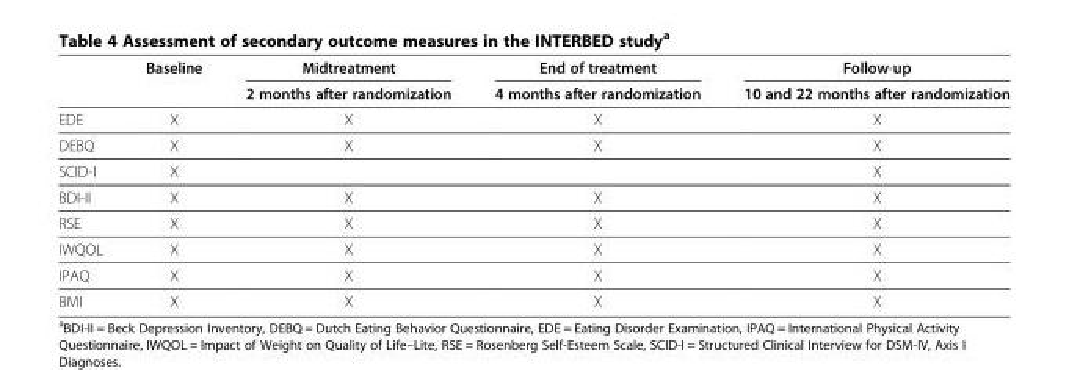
<table><thead><tr><td rowspan="2"></td><td rowspan="2">Baseline</td><td rowspan="2">Midtreatment 2 months after randomization</td><td rowspan="2">End of treatment 4 months after randomization</td><td rowspan="2">Follow-up 10 and 22 months after randomization</td></tr><tr></tr></thead><tbody><tr><td>EDE</td><td>X</td><td>X</td><td>X</td><td>X</td></tr><tr><td>DEBQ</td><td>X</td><td>X</td><td>X</td><td>X</td></tr><tr><td>SCID-I</td><td>X</td><td></td><td></td><td>X</td></tr><tr><td>BDI-II</td><td>X</td><td>X</td><td>X</td><td>X</td></tr><tr><td>RSE</td><td>X</td><td>X</td><td>X</td><td>X</td></tr><tr><td>IWQOL</td><td>X</td><td>X</td><td>X</td><td>X</td></tr><tr><td>IPAQ</td><td>X</td><td>X</td><td>X</td><td>X</td></tr><tr><td>BMI</td><td>X</td><td>X</td><td>X</td><td>X</td></tr></tbody></table>